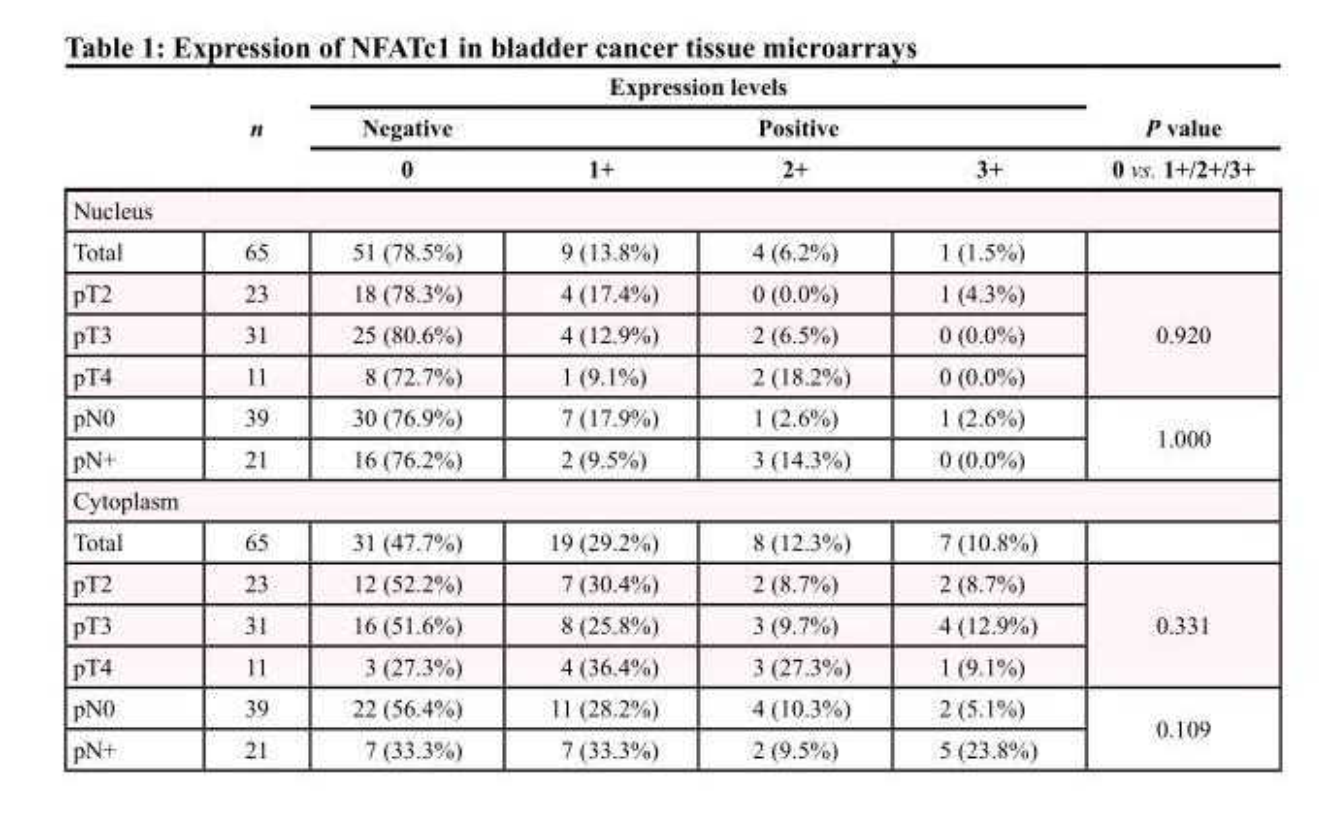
<table><thead><tr><td rowspan="3"></td><td rowspan="3">n</td><td colspan="4">Expression levels</td><td rowspan="3">P value 0 vs. 1+/2+/3+</td></tr><tr><td colspan="2">Negative</td><td colspan="2">Positive</td></tr><tr><td>0</td><td>1+</td><td>2+</td><td>3+</td></tr></thead><tbody><tr><td colspan="7">Nucleus</td></tr><tr><td>Total</td><td>65</td><td>51 (78.5%)</td><td>9 (13.8%)</td><td>4 (6.2%)</td><td>1 (1.5%)</td><td></td></tr><tr><td>pT2</td><td>23</td><td>18 (78.3%)</td><td>4 (17.4%)</td><td>0 (0.0%)</td><td>1 (4.3%)</td><td rowspan="3">0.920</td></tr><tr><td>pT3</td><td>31</td><td>25 (80.6%)</td><td>4 (12.9%)</td><td>2 (6.5%)</td><td>0 (0.0%)</td></tr><tr><td>pT4</td><td>11</td><td>8 (72.7%)</td><td>1 (9.1%)</td><td>2 (18.2%)</td><td>0 (0.0%)</td></tr><tr><td>pN0</td><td>39</td><td>30 (76.9%)</td><td>7 (17.9%)</td><td>1 (2.6%)</td><td>1 (2.6%)</td><td rowspan="2">1.000</td></tr><tr><td>pN+</td><td>21</td><td>16 (76.2%)</td><td>2 (9.5%)</td><td>3 (14.3%)</td><td>0 (0.0%)</td></tr><tr><td colspan="7">Cytoplasm</td></tr><tr><td>Total</td><td>65</td><td>31 (47.7%)</td><td>19 (29.2%)</td><td>8 (12.3%)</td><td>7 (10.8%)</td><td></td></tr><tr><td>pT2</td><td>23</td><td>12 (52.2%)</td><td>7 (30.4%)</td><td>2 (8.7%)</td><td>2 (8.7%)</td><td rowspan="3">0.331</td></tr><tr><td>pT3</td><td>31</td><td>16 (51.6%)</td><td>8 (25.8%)</td><td>3 (9.7%)</td><td>4 (12.9%)</td></tr><tr><td>pT4</td><td>11</td><td>3 (27.3%)</td><td>4 (36.4%)</td><td>3 (27.3%)</td><td>1 (9.1%)</td></tr><tr><td>pN0</td><td>39</td><td>22 (56.4%)</td><td>11 (28.2%)</td><td>4 (10.3%)</td><td>2 (5.1%)</td><td rowspan="2">0.109</td></tr><tr><td>pN+</td><td>21</td><td>7 (33.3%)</td><td>7 (33.3%)</td><td>2 (9.5%)</td><td>5 (23.8%)</td></tr></tbody></table>